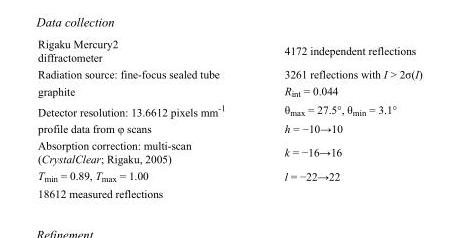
<table><tbody><tr><td>Rigaku Mercury2 diffractometer</td><td>4172 independent reflections</td></tr><tr><td>Radiation source: fine-focus sealed tube</td><td>3261 reflections with I &gt; 2σ(I)</td></tr><tr><td>graphite</td><td>R<sub>int</sub> = 0.044</td></tr><tr><td>Detector resolution: 13.6612 pixels mm<sup>-1</sup></td><td>θ<sub>max</sub> = 27.5°, θ<sub>min</sub> = 3.1°</td></tr><tr><td>profile data from φ scans</td><td>h = −10→10</td></tr><tr><td>Absorption correction: multi-scan (CrystalClear; Rigaku, 2005)</td><td>k = −16→16</td></tr><tr><td>T<sub>min</sub> = 0.89, T<sub>max</sub> = 1.00</td><td>l = −22→22</td></tr><tr><td>18612 measured reflections</td><td></td></tr></tbody></table>